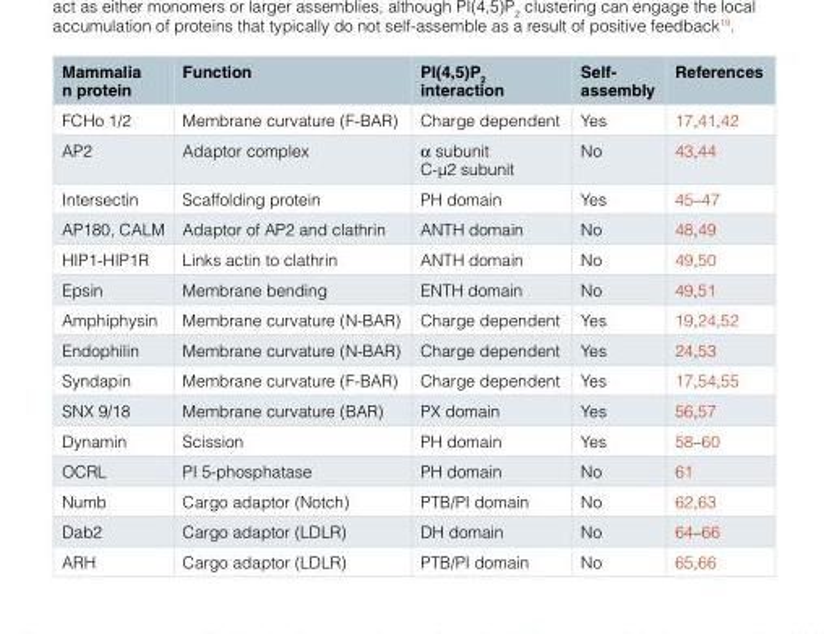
<table><thead><tr><td>Mammalia n protein</td><td>Function</td><td>PI(4,5)P<sub>2</sub> interaction</td><td>Self- assembly</td><td>References</td></tr></thead><tbody><tr><td>FCHo 1/2</td><td>Membrane curvature (F-BAR)</td><td>Charge dependent</td><td>Yes</td><td>17,41,42</td></tr><tr><td>AP2</td><td>Adaptor complex</td><td>α subunit C-μ2 subunit</td><td>No</td><td>43,44</td></tr><tr><td>Intersectin</td><td>Scaffolding protein</td><td>PH domain</td><td>Yes</td><td>45–47</td></tr><tr><td>AP180, CALM</td><td>Adaptor of AP2 and clathrin</td><td>ANTH domain</td><td>No</td><td>48,49</td></tr><tr><td>HIP1-HIP1R</td><td>Links actin to clathrin</td><td>ANTH domain</td><td>No</td><td>49,50</td></tr><tr><td>Epsin</td><td>Membrane bending</td><td>ENTH domain</td><td>No</td><td>49,51</td></tr><tr><td>Amphiphysin</td><td>Membrane curvature (N-BAR)</td><td>Charge dependent</td><td>Yes</td><td>19,24,52</td></tr><tr><td>Endophilin</td><td>Membrane curvature (N-BAR)</td><td>Charge dependent</td><td>Yes</td><td>24,53</td></tr><tr><td>Syndapin</td><td>Membrane curvature (F-BAR)</td><td>Charge dependent</td><td>Yes</td><td>17,54,55</td></tr><tr><td>SNX 9/18</td><td>Membrane curvature (BAR)</td><td>PX domain</td><td>Yes</td><td>56,57</td></tr><tr><td>Dynamin</td><td>Scission</td><td>PH domain</td><td>Yes</td><td>58–60</td></tr><tr><td>OCRL</td><td>PI 5-phosphatase</td><td>PH domain</td><td>No</td><td>61</td></tr><tr><td>Numb</td><td>Cargo adaptor (Notch)</td><td>PTB/PI domain</td><td>No</td><td>62,63</td></tr><tr><td>Dab2</td><td>Cargo adaptor (LDLR)</td><td>DH domain</td><td>No</td><td>64–66</td></tr><tr><td>ARH</td><td>Cargo adaptor (LDLR)</td><td>PTB/PI domain</td><td>No</td><td>65,66</td></tr></tbody></table>